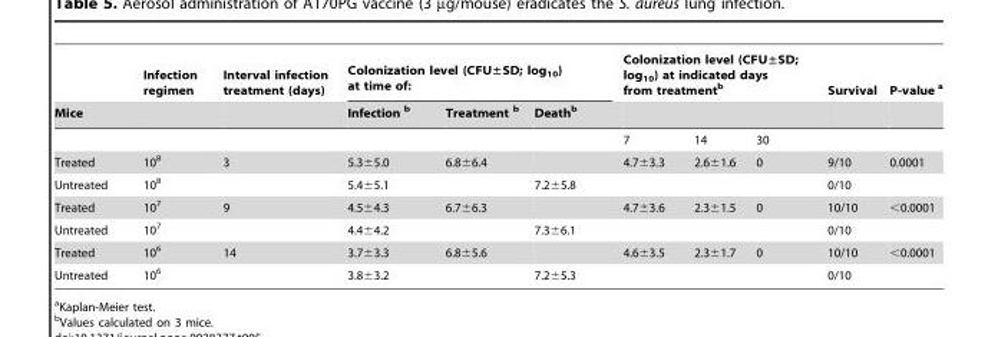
<table><thead><tr><td rowspan="2">Mice</td><td rowspan="2">Infection regimen</td><td rowspan="2">Interval infection treatment (days)</td><td colspan="3">Colonization level (CFU±SD; log<sub>10</sub>) at time of:</td><td colspan="3">Colonization level (CFU±SD; log<sub>10</sub>) at indicated days from treatment<sup>b</sup></td><td rowspan="2">Survival</td><td rowspan="2">P-value <sup>a</sup></td></tr><tr><td>Infection <sup>b</sup></td><td>Treatment <sup>b</sup></td><td>Death<sup>b</sup></td><td></td><td></td><td></td></tr></thead><tbody><tr><td></td><td></td><td></td><td></td><td></td><td></td><td>7</td><td>14</td><td>30</td><td></td><td></td></tr><tr><td>Treated</td><td>10<sup>8</sup></td><td>3</td><td>5.3±5.0</td><td>6.8±6.4</td><td></td><td>4.7±3.3</td><td>2.6±1.6</td><td>0</td><td>9/10</td><td>0.0001</td></tr><tr><td>Untreated</td><td>10<sup>8</sup></td><td></td><td>5.4±5.1</td><td></td><td>7.2±5.8</td><td></td><td></td><td></td><td>0/10</td><td></td></tr><tr><td>Treated</td><td>10<sup>7</sup></td><td>9</td><td>4.5±4.3</td><td>6.7±6.3</td><td></td><td>4.7±3.6</td><td>2.3±1.5</td><td>0</td><td>10/10</td><td>&lt;0.0001</td></tr><tr><td>Untreated</td><td>10<sup>7</sup></td><td></td><td>4.4±4.2</td><td></td><td>7.3±6.1</td><td></td><td></td><td></td><td>0/10</td><td></td></tr><tr><td>Treated</td><td>10<sup>6</sup></td><td>14</td><td>3.7±3.3</td><td>6.8±5.6</td><td></td><td>4.6±3.5</td><td>2.3±1.7</td><td>0</td><td>10/10</td><td>&lt;0.0001</td></tr><tr><td>Untreated</td><td>10<sup>6</sup></td><td></td><td>3.8±3.2</td><td></td><td>7.2±5.3</td><td></td><td></td><td></td><td>0/10</td><td></td></tr></tbody></table>